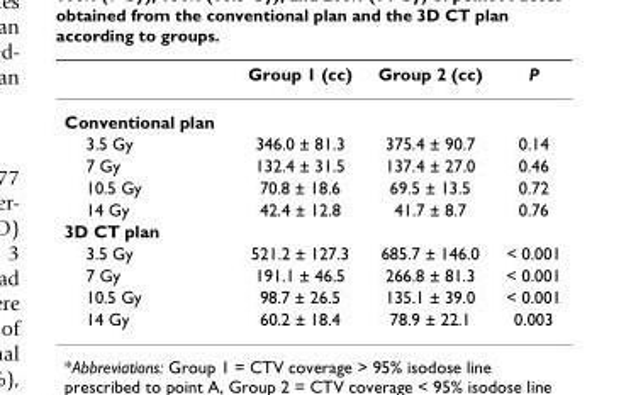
<table><thead><tr><td></td><td>Group 1 (cc)</td><td>Group 2 (cc)</td><td>P</td></tr></thead><tbody><tr><td colspan="4">Conventional plan</td></tr><tr><td>3.5 Gy</td><td>346.0 ± 81.3</td><td>375.4 ± 90.7</td><td>0.14</td></tr><tr><td>7 Gy</td><td>132.4 ± 31.5</td><td>137.4 ± 27.0</td><td>0.46</td></tr><tr><td>10.5 Gy</td><td>70.8 ± 18.6</td><td>69.5 ± 13.5</td><td>0.72</td></tr><tr><td>14 Gy</td><td>42.4 ± 12.8</td><td>41.7 ± 8.7</td><td>0.76</td></tr><tr><td colspan="4">3D CT plan</td></tr><tr><td>3.5 Gy</td><td>521.2 ± 127.3</td><td>685.7 ± 146.0</td><td>&lt; 0.001</td></tr><tr><td>7 Gy</td><td>191.1 ± 46.5</td><td>266.8 ± 81.3</td><td>&lt; 0.001</td></tr><tr><td>10.5 Gy</td><td>98.7 ± 26.5</td><td>135.1 ± 39.0</td><td>&lt; 0.001</td></tr><tr><td>14 Gy</td><td>60.2 ± 18.4</td><td>78.9 ± 22.1</td><td>0.003</td></tr></tbody></table>